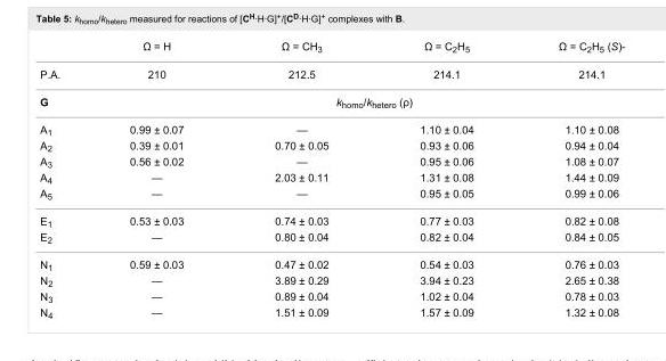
<table><thead><tr><td></td><td>Ω = H</td><td>Ω = CH<sub>3</sub></td><td>Ω = C<sub>2</sub>H<sub>5</sub></td><td>Ω = C<sub>2</sub>H<sub>5</sub> (S)-</td></tr></thead><tbody><tr><td>P.A.</td><td>210</td><td>212.5</td><td>214.1</td><td>214.1</td></tr><tr><td>G</td><td colspan="4">k<sub>homo</sub>/k<sub>hetero</sub> (ρ)</td></tr><tr><td>A<sub>1</sub></td><td>0.99 ± 0.07</td><td>—</td><td>1.10 ± 0.04</td><td>1.10 ± 0.08</td></tr><tr><td>A<sub>2</sub></td><td>0.39 ± 0.01</td><td>0.70 ± 0.05</td><td>0.93 ± 0.06</td><td>0.94 ± 0.04</td></tr><tr><td>A<sub>3</sub></td><td>0.56 ± 0.02</td><td>—</td><td>0.95 ± 0.06</td><td>1.08 ± 0.07</td></tr><tr><td>A<sub>4</sub></td><td>—</td><td>2.03 ± 0.11</td><td>1.31 ± 0.08</td><td>1.44 ± 0.09</td></tr><tr><td>A<sub>5</sub></td><td>—</td><td>—</td><td>0.95 ± 0.05</td><td>0.99 ± 0.06</td></tr><tr><td>E<sub>1</sub></td><td>0.53 ± 0.03</td><td>0.74 ± 0.03</td><td>0.77 ± 0.03</td><td>0.82 ± 0.08</td></tr><tr><td>E<sub>2</sub></td><td>—</td><td>0.80 ± 0.04</td><td>0.82 ± 0.04</td><td>0.84 ± 0.05</td></tr><tr><td>N<sub>1</sub></td><td>0.59 ± 0.03</td><td>0.47 ± 0.02</td><td>0.54 ± 0.03</td><td>0.76 ± 0.03</td></tr><tr><td>N<sub>2</sub></td><td>—</td><td>3.89 ± 0.29</td><td>3.94 ± 0.23</td><td>2.65 ± 0.38</td></tr><tr><td>N<sub>3</sub></td><td>—</td><td>0.89 ± 0.04</td><td>1.02 ± 0.04</td><td>0.78 ± 0.03</td></tr><tr><td>N<sub>4</sub></td><td>—</td><td>1.51 ± 0.09</td><td>1.57 ± 0.09</td><td>1.32 ± 0.08</td></tr></tbody></table>